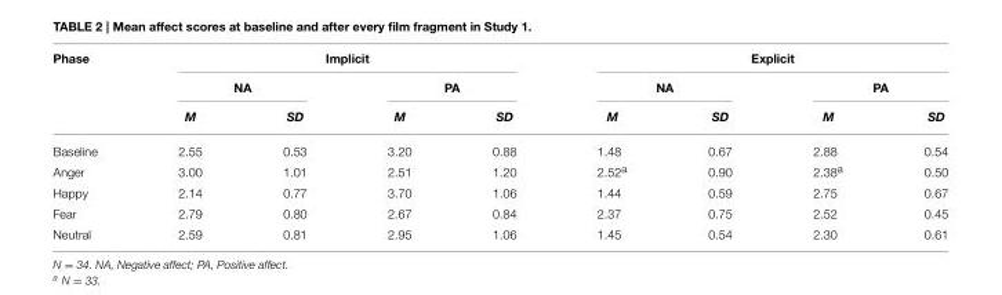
<table><thead><tr><td rowspan="3">Phase</td><td colspan="4">Implicit</td><td colspan="4">Explicit</td></tr><tr><td colspan="2">NA</td><td colspan="2">PA</td><td colspan="2">NA</td><td colspan="2">PA</td></tr><tr><td>M</td><td>SD</td><td>M</td><td>SD</td><td>M</td><td>SD</td><td>M</td><td>SD</td></tr></thead><tbody><tr><td>Baseline</td><td>2.55</td><td>0.53</td><td>3.20</td><td>0.88</td><td>1.48</td><td>0.67</td><td>2.88</td><td>0.54</td></tr><tr><td>Anger</td><td>3.00</td><td>1.01</td><td>2.51</td><td>1.20</td><td>2.52<sup>a</sup></td><td>0.90</td><td>2.38<sup>a</sup></td><td>0.50</td></tr><tr><td>Happy</td><td>2.14</td><td>0.77</td><td>3.70</td><td>1.06</td><td>1.44</td><td>0.59</td><td>2.75</td><td>0.67</td></tr><tr><td>Fear</td><td>2.79</td><td>0.80</td><td>2.67</td><td>0.84</td><td>2.37</td><td>0.75</td><td>2.52</td><td>0.45</td></tr><tr><td>Neutral</td><td>2.59</td><td>0.81</td><td>2.95</td><td>1.06</td><td>1.45</td><td>0.54</td><td>2.30</td><td>0.61</td></tr></tbody></table>